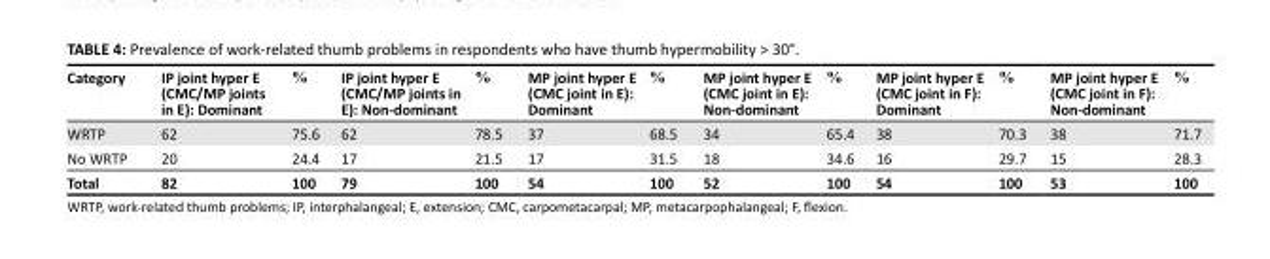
<table><thead><tr><td>Category</td><td>IP joint hyper E (CMC/MP joints in E): Dominant</td><td>%</td><td>IP joint hyper E (CMC/MP joints in E): Non-dominant</td><td>%</td><td>MP joint hyper E (CMC joint in E): Dominant</td><td>%</td><td>MP joint hyper E (CMC joint in E): Non-dominant</td><td>%</td><td>MP joint hyper E (CMC joint in F): Dominant</td><td>%</td><td>MP joint hyper E (CMC joint in F): Non-dominant</td><td>%</td></tr></thead><tbody><tr><td>WRTP</td><td>62</td><td>75.6</td><td>62</td><td>78.5</td><td>37</td><td>68.5</td><td>34</td><td>65.4</td><td>38</td><td>70.3</td><td>38</td><td>71.7</td></tr><tr><td>No WRTP</td><td>20</td><td>24.4</td><td>17</td><td>21.5</td><td>17</td><td>31.5</td><td>18</td><td>34.6</td><td>16</td><td>29.7</td><td>15</td><td>28.3</td></tr><tr><td>Total</td><td>82</td><td>100</td><td>79</td><td>100</td><td>54</td><td>100</td><td>52</td><td>100</td><td>54</td><td>100</td><td>53</td><td>100</td></tr></tbody></table>